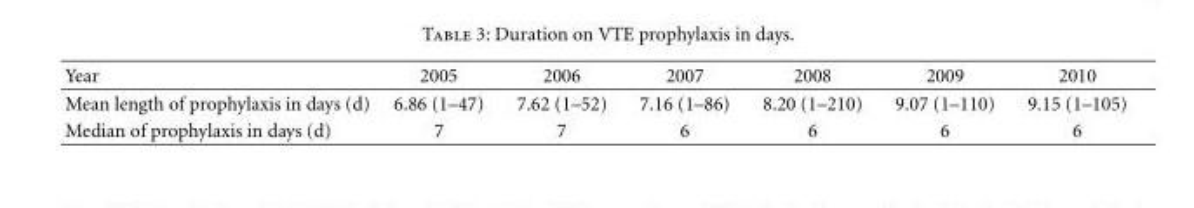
<table><thead><tr><td>Year</td><td>2005</td><td>2006</td><td>2007</td><td>2008</td><td>2009</td><td>2010</td></tr></thead><tbody><tr><td>Mean length of prophylaxis in days (d)</td><td>6.86 (1–47)</td><td>7.62 (1–52)</td><td>7.16 (1–86)</td><td>8.20 (1–210)</td><td>9.07 (1–110)</td><td>9.15 (1–105)</td></tr><tr><td>Median of prophylaxis in days (d)</td><td>7</td><td>7</td><td>6</td><td>6</td><td>6</td><td>6</td></tr></tbody></table>